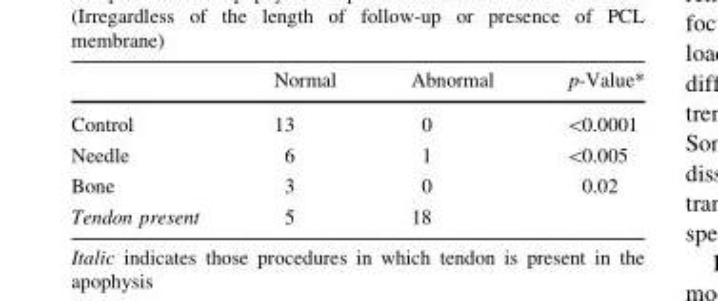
<table><thead><tr><td></td><td>Normal</td><td>Abnormal</td><td>p-Value*</td></tr></thead><tbody><tr><td>Control</td><td>13</td><td>0</td><td>&lt;0.0001</td></tr><tr><td>Needle</td><td>6</td><td>1</td><td>&lt;0.005</td></tr><tr><td>Bone</td><td>3</td><td>0</td><td>0.02</td></tr><tr><td>Tendon present</td><td>5</td><td>18</td><td></td></tr></tbody></table>